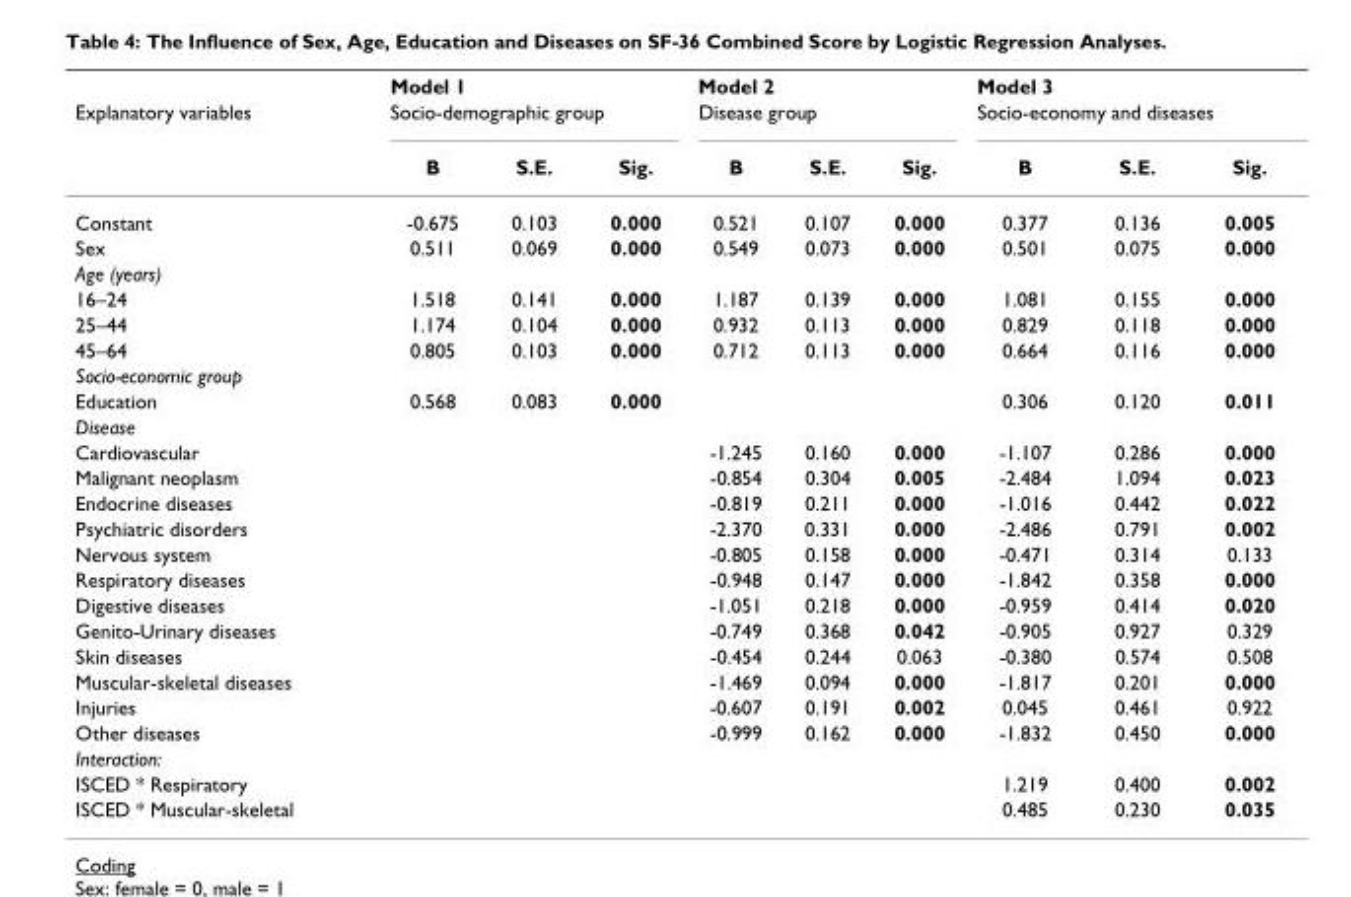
<table><thead><tr><td rowspan="3">Explanatory variables</td><td rowspan="2" colspan="3">Model 1 Socio-demographic group</td><td rowspan="2" colspan="3">Model 2 Disease group</td><td rowspan="2" colspan="3">Model 3 Socio-economy and diseases</td></tr><tr></tr><tr><td>B</td><td>S.E.</td><td>Sig.</td><td>B</td><td>S.E.</td><td>Sig.</td><td>B</td><td>S.E.</td><td>Sig.</td></tr></thead><tbody><tr><td>Constant</td><td>-0.675</td><td>0.103</td><td>0.000</td><td>0.521</td><td>0.107</td><td>0.000</td><td>0.377</td><td>0.136</td><td>0.005</td></tr><tr><td>Sex</td><td>0.511</td><td>0.069</td><td>0.000</td><td>0.549</td><td>0.073</td><td>0.000</td><td>0.501</td><td>0.075</td><td>0.000</td></tr><tr><td colspan="10">Age (years)</td></tr><tr><td>16–24</td><td>1.518</td><td>0.141</td><td>0.000</td><td>1.187</td><td>0.139</td><td>0.000</td><td>1.081</td><td>0.155</td><td>0.000</td></tr><tr><td>25–44</td><td>1.174</td><td>0.104</td><td>0.000</td><td>0.932</td><td>0.113</td><td>0.000</td><td>0.829</td><td>0.118</td><td>0.000</td></tr><tr><td>45–64</td><td>0.805</td><td>0.103</td><td>0.000</td><td>0.712</td><td>0.113</td><td>0.000</td><td>0.664</td><td>0.116</td><td>0.000</td></tr><tr><td colspan="10">Socio-economic group</td></tr><tr><td>Education</td><td>0.568</td><td>0.083</td><td>0.000</td><td></td><td></td><td></td><td>0.306</td><td>0.120</td><td>0.011</td></tr><tr><td colspan="10">Disease</td></tr><tr><td>Cardiovascular</td><td></td><td></td><td></td><td>-1.245</td><td>0.160</td><td>0.000</td><td>-1.107</td><td>0.286</td><td>0.000</td></tr><tr><td>Malignant neoplasm</td><td></td><td></td><td></td><td>-0.854</td><td>0.304</td><td>0.005</td><td>-2.484</td><td>1.094</td><td>0.023</td></tr><tr><td>Endocrine diseases</td><td></td><td></td><td></td><td>-0.819</td><td>0.211</td><td>0.000</td><td>-1.016</td><td>0.442</td><td>0.022</td></tr><tr><td>Psychiatric disorders</td><td></td><td></td><td></td><td>-2.370</td><td>0.331</td><td>0.000</td><td>-2.486</td><td>0.791</td><td>0.002</td></tr><tr><td>Nervous system</td><td></td><td></td><td></td><td>-0.805</td><td>0.158</td><td>0.000</td><td>-0.471</td><td>0.314</td><td>0.133</td></tr><tr><td>Respiratory diseases</td><td></td><td></td><td></td><td>-0.948</td><td>0.147</td><td>0.000</td><td>-1.842</td><td>0.358</td><td>0.000</td></tr><tr><td>Digestive diseases</td><td></td><td></td><td></td><td>-1.051</td><td>0.218</td><td>0.000</td><td>-0.959</td><td>0.414</td><td>0.020</td></tr><tr><td>Genito-Urinary diseases</td><td></td><td></td><td></td><td>-0.749</td><td>0.368</td><td>0.042</td><td>-0.905</td><td>0.927</td><td>0.329</td></tr><tr><td>Skin diseases</td><td></td><td></td><td></td><td>-0.454</td><td>0.244</td><td>0.063</td><td>-0.380</td><td>0.574</td><td>0.508</td></tr><tr><td>Muscular-skeletal diseases</td><td></td><td></td><td></td><td>-1.469</td><td>0.094</td><td>0.000</td><td>-1.817</td><td>0.201</td><td>0.000</td></tr><tr><td>Injuries</td><td></td><td></td><td></td><td>-0.607</td><td>0.191</td><td>0.002</td><td>0.045</td><td>0.461</td><td>0.922</td></tr><tr><td>Other diseases</td><td></td><td></td><td></td><td>-0.999</td><td>0.162</td><td>0.000</td><td>-1.832</td><td>0.450</td><td>0.000</td></tr><tr><td colspan="10">Interaction:</td></tr><tr><td>ISCED * Respiratory</td><td></td><td></td><td></td><td></td><td></td><td></td><td>1.219</td><td>0.400</td><td>0.002</td></tr><tr><td>ISCED * Muscular-skeletal</td><td></td><td></td><td></td><td></td><td></td><td></td><td>0.485</td><td>0.230</td><td>0.035</td></tr></tbody></table>